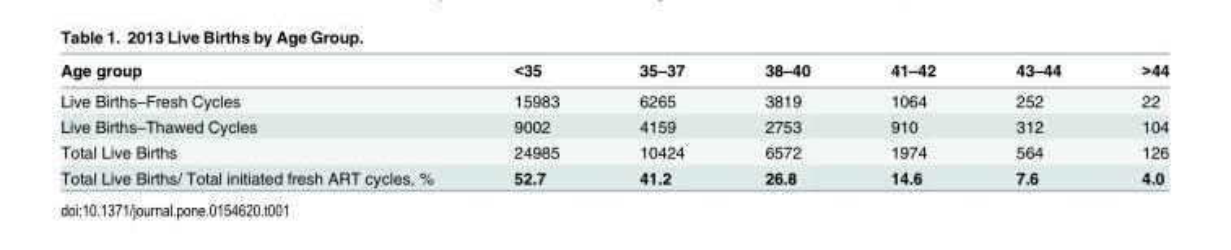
<table><thead><tr><td>Age group</td><td>&lt;35</td><td>35–37</td><td>38–40</td><td>41–42</td><td>43–44</td><td>&gt;44</td></tr></thead><tbody><tr><td>Live Births–Fresh Cycles</td><td>15983</td><td>6265</td><td>3819</td><td>1064</td><td>252</td><td>22</td></tr><tr><td>Live Births–Thawed Cycles</td><td>9002</td><td>4159</td><td>2753</td><td>910</td><td>312</td><td>104</td></tr><tr><td>Total Live Births</td><td>24985</td><td>10424</td><td>6572</td><td>1974</td><td>564</td><td>126</td></tr><tr><td>Total Live Births/ Total initiated fresh ART cycles, %</td><td>52.7</td><td>41.2</td><td>26.8</td><td>14.6</td><td>7.6</td><td>4.0</td></tr></tbody></table>